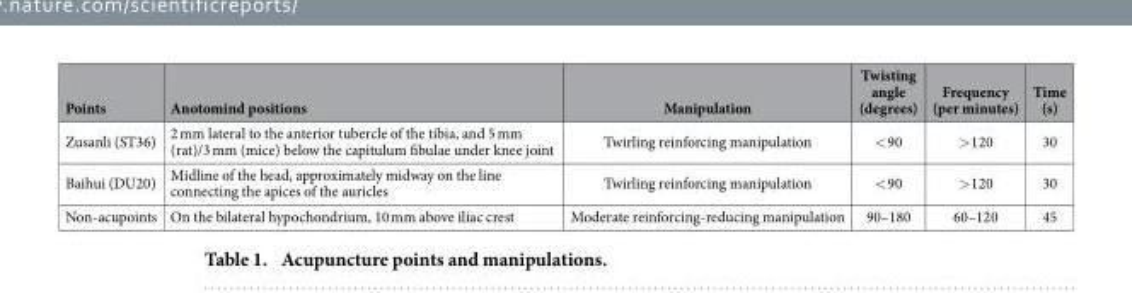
<table><thead><tr><td>Points</td><td>Anotomind positions</td><td>Manipulation</td><td>Twisting angle (degrees)</td><td>Frequency (per minutes)</td><td>Time (s)</td></tr></thead><tbody><tr><td>Zusanli (ST36)</td><td>2 mm lateral to the anterior tubercle of the tibia, and 5 mm (rat)/3 mm (mice) below the capitulum fibulae under knee joint</td><td>Twirling reinforcing manipulation</td><td>&lt; 90</td><td>&gt; 120</td><td>30</td></tr><tr><td>Baihui (DU20)</td><td>Midline of the head, approximately midway on the line connecting the apices of the auricles</td><td>Twirling reinforcing manipulation</td><td>&lt; 90</td><td>&gt; 120</td><td>30</td></tr><tr><td>Non-acupoints</td><td>On the bilateral hypochondrium, 10 mm above iliac crest</td><td>Moderate reinforcing-reducing manipulation</td><td>90–180</td><td>60–120</td><td>45</td></tr></tbody></table>